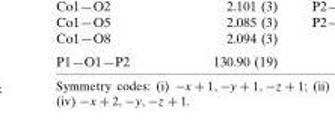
<table><tbody><tr><td>P1—O1—P2</td><td>130.90 (19)</td></tr></tbody></table>